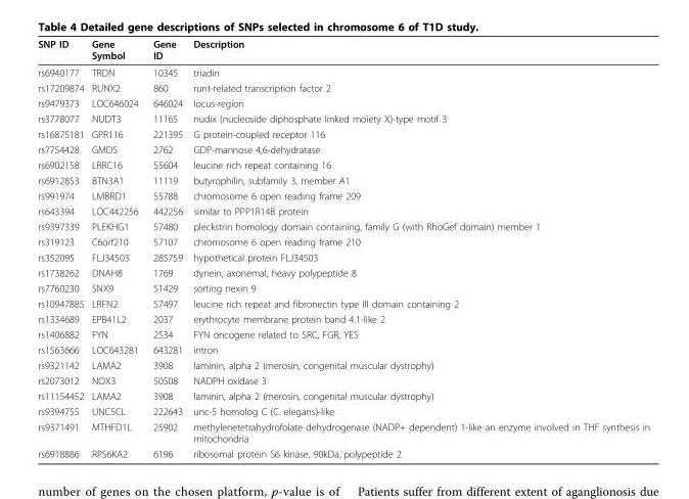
<table><thead><tr><td>SNP ID</td><td>Gene Symbol</td><td>Gene ID</td><td>Description</td></tr></thead><tbody><tr><td>rs6940177</td><td>TRDN</td><td>10345</td><td>triadin</td></tr><tr><td>rs17209874</td><td>RUNX2</td><td>860</td><td>runt-related transcription factor 2</td></tr><tr><td>rs9479373</td><td>LOC646024</td><td>646024</td><td>locus-region</td></tr><tr><td>rs3778077</td><td>NUDT3</td><td>11165</td><td>nudix (nucleoside diphosphate linked moiety X)-type motif 3</td></tr><tr><td>rs16875181</td><td>GPR116</td><td>221395</td><td>G protein-coupled receptor 116</td></tr><tr><td>rs7754428</td><td>GMDS</td><td>2762</td><td>GDP-mannose 4,6-dehydratase</td></tr><tr><td>rs6902158</td><td>LRRC16</td><td>55604</td><td>leucine rich repeat containing 16</td></tr><tr><td>rs6912853</td><td>BTN3A1</td><td>11119</td><td>butyrophilin, subfamily 3, member A1</td></tr><tr><td>rs991974</td><td>LMBRD1</td><td>55788</td><td>chromosome 6 open reading frame 209</td></tr><tr><td>rs643394</td><td>LOC442256</td><td>442256</td><td>similar to PPP1R14B protein</td></tr><tr><td>rs9397339</td><td>PLEKHG1</td><td>57480</td><td>pleckstrin homology domain containing, family G (with RhoGef domain) member 1</td></tr><tr><td>rs319123</td><td>C6orf210</td><td>57107</td><td>chromosome 6 open reading frame 210</td></tr><tr><td>rs352095</td><td>FLJ34503</td><td>285759</td><td>hypothetical protein FLJ34503</td></tr><tr><td>rs1738262</td><td>DNAH8</td><td>1769</td><td>dynein, axonemal, heavy polypeptide 8</td></tr><tr><td>rs7760230</td><td>SNX9</td><td>51429</td><td>sorting nexin 9</td></tr><tr><td>rs10947885</td><td>LRFN2</td><td>57497</td><td>leucine rich repeat and fibronectin type III domain containing 2</td></tr><tr><td>rs1334689</td><td>EPB41L2</td><td>2037</td><td>erythrocyte membrane protein band 4.1-like 2</td></tr><tr><td>rs1406882</td><td>FYN</td><td>2534</td><td>FYN oncogene related to SRC, FGR, YES</td></tr><tr><td>rs1563666</td><td>LOC643281</td><td>643281</td><td>intron</td></tr><tr><td>rs9321142</td><td>LAMA2</td><td>3908</td><td>laminin, alpha 2 (merosin, congenital muscular dystrophy)</td></tr><tr><td>rs2073012</td><td>NOX3</td><td>50508</td><td>NADPH oxidase 3</td></tr><tr><td>rs11154452</td><td>LAMA2</td><td>3908</td><td>laminin, alpha 2 (merosin, congenital muscular dystrophy)</td></tr><tr><td>rs9394755</td><td>UNC5CL</td><td>222643</td><td>unc-5 homolog C (C. elegans)-like</td></tr><tr><td>rs9371491</td><td>MTHFD1L</td><td>25902</td><td>methylenetetrahydrofolate dehydrogenase (NADP+ dependent) 1-like an enzyme involved in THF synthesis in mitochondria</td></tr><tr><td>rs6918886</td><td>RPS6KA2</td><td>6196</td><td>ribosomal protein S6 kinase, 90kDa, polypeptide 2</td></tr></tbody></table>